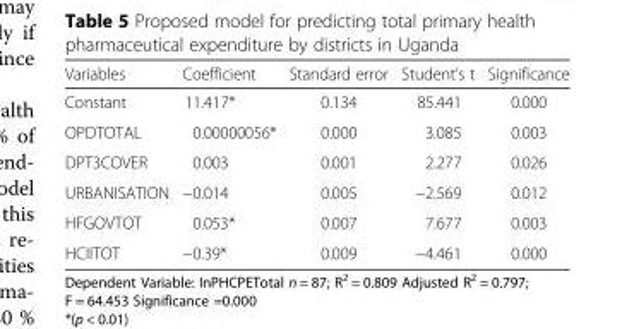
<table><thead><tr><td>Variables</td><td>Coefficient</td><td>Standard error</td><td>Student’s t</td><td>Significance</td></tr></thead><tbody><tr><td>Constant</td><td>11.417*</td><td>0.134</td><td>85.441</td><td>0.000</td></tr><tr><td>OPDTOTAL</td><td>0.00000056*</td><td>0.000</td><td>3.085</td><td>0.003</td></tr><tr><td>DPT3COVER</td><td>0.003</td><td>0.001</td><td>2.277</td><td>0.026</td></tr><tr><td>URBANISATION</td><td>−0.014</td><td>0.005</td><td>−2.569</td><td>0.012</td></tr><tr><td>HFGOVTOT</td><td>0.053*</td><td>0.007</td><td>7.677</td><td>0.003</td></tr><tr><td>HCIITOT</td><td>−0.39*</td><td>0.009</td><td>−4.461</td><td>0.000</td></tr></tbody></table>